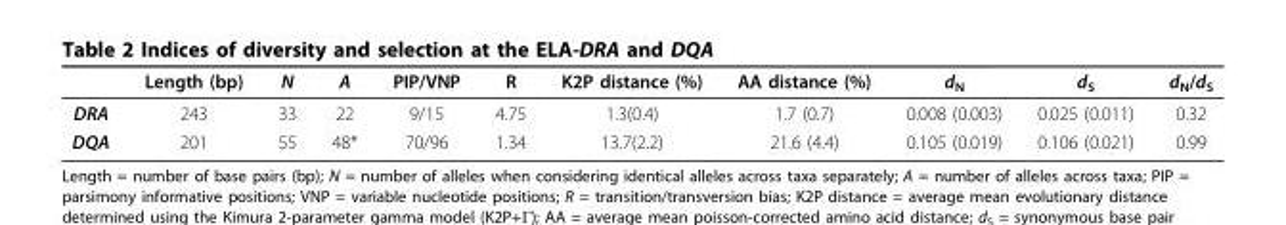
<table><thead><tr><td></td><td>Length (bp)</td><td>N</td><td>A</td><td>PIP/VNP</td><td>R</td><td>K2P distance (%)</td><td>AA distance (%)</td><td>d<sub>N</sub></td><td>d<sub>S</sub></td><td>d<sub>N</sub>/d<sub>S</sub></td></tr></thead><tbody><tr><td>DRA</td><td>243</td><td>33</td><td>22</td><td>9/15</td><td>4.75</td><td>1.3(0.4)</td><td>1.7 (0.7)</td><td>0.008 (0.003)</td><td>0.025 (0.011)</td><td>0.32</td></tr><tr><td>DQA</td><td>201</td><td>55</td><td>48*</td><td>70/96</td><td>1.34</td><td>13.7(2.2)</td><td>21.6 (4.4)</td><td>0.105 (0.019)</td><td>0.106 (0.021)</td><td>0.99</td></tr></tbody></table>